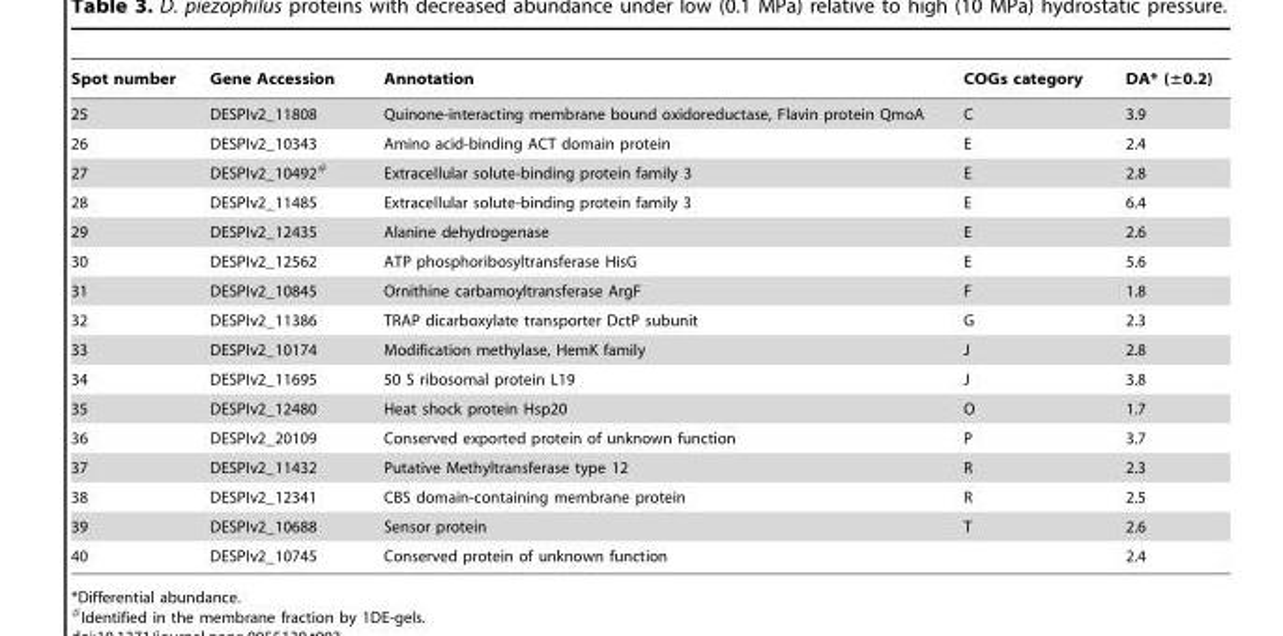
<table><thead><tr><td>Spot number</td><td>Gene Accession</td><td>Annotation</td><td>COGs category</td><td>DA* (±0.2)</td></tr></thead><tbody><tr><td>25</td><td>DESPIv2_11808</td><td>Quinone-interacting membrane bound oxidoreductase, Flavin protein QmoA</td><td>C</td><td>3.9</td></tr><tr><td>26</td><td>DESPIv2_10343</td><td>Amino acid-binding ACT domain protein</td><td>E</td><td>2.4</td></tr><tr><td>27</td><td>DESPIv2_10492#</td><td>Extracellular solute-binding protein family 3</td><td>E</td><td>2.8</td></tr><tr><td>28</td><td>DESPIv2_11485</td><td>Extracellular solute-binding protein family 3</td><td>E</td><td>6.4</td></tr><tr><td>29</td><td>DESPIv2_12435</td><td>Alanine dehydrogenase</td><td>E</td><td>2.6</td></tr><tr><td>30</td><td>DESPIv2_12562</td><td>ATP phosphoribosyltransferase HisG</td><td>E</td><td>5.6</td></tr><tr><td>31</td><td>DESPIv2_10845</td><td>Ornithine carbamoyltransferase ArgF</td><td>F</td><td>1.8</td></tr><tr><td>32</td><td>DESPIv2_11386</td><td>TRAP dicarboxylate transporter DctP subunit</td><td>G</td><td>2.3</td></tr><tr><td>33</td><td>DESPIv2_10174</td><td>Modification methylase, HemK family</td><td>J</td><td>2.8</td></tr><tr><td>34</td><td>DESPIv2_11695</td><td>50 S ribosomal protein L19</td><td>J</td><td>3.8</td></tr><tr><td>35</td><td>DESPIv2_12480</td><td>Heat shock protein Hsp20</td><td>O</td><td>1.7</td></tr><tr><td>36</td><td>DESPIv2_20109</td><td>Conserved exported protein of unknown function</td><td>P</td><td>3.7</td></tr><tr><td>37</td><td>DESPIv2_11432</td><td>Putative Methyltransferase type 12</td><td>R</td><td>2.3</td></tr><tr><td>38</td><td>DESPIv2_12341</td><td>CBS domain-containing membrane protein</td><td>R</td><td>2.5</td></tr><tr><td>39</td><td>DESPIv2_10688</td><td>Sensor protein</td><td>T</td><td>2.6</td></tr><tr><td>40</td><td>DESPIv2_10745</td><td>Conserved protein of unknown function</td><td></td><td>2.4</td></tr></tbody></table>